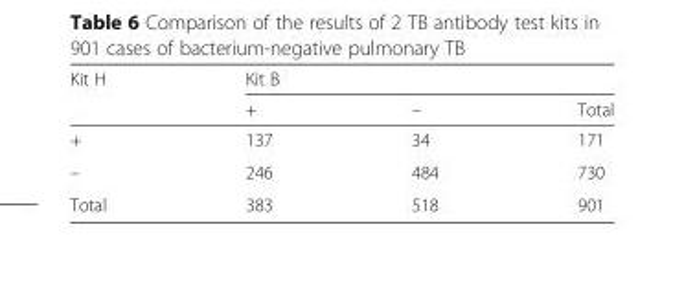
<table><thead><tr><td rowspan="2">Kit H</td><td colspan="3">Kit B</td></tr><tr><td>+</td><td>–</td><td>Total</td></tr></thead><tbody><tr><td>+</td><td>137</td><td>34</td><td>171</td></tr><tr><td>–</td><td>246</td><td>484</td><td>730</td></tr><tr><td>Total</td><td>383</td><td>518</td><td>901</td></tr></tbody></table>